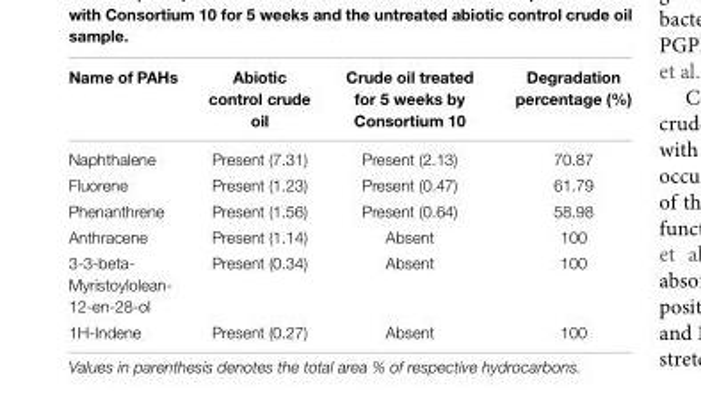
<table><thead><tr><td>Name of PAHs</td><td>Abiotic control crude oil</td><td>Crude oil treated for 5 weeks by Consortium 10</td><td>Degradation percentage (%)</td></tr></thead><tbody><tr><td>Naphthalene</td><td>Present (7.31)</td><td>Present (2.13)</td><td>70.87</td></tr><tr><td>Fluorene</td><td>Present (1.23)</td><td>Present (0.47)</td><td>61.79</td></tr><tr><td>Phenanthrene</td><td>Present (1.56)</td><td>Present (0.64)</td><td>58.98</td></tr><tr><td>Anthracene</td><td>Present (1.14)</td><td>Absent</td><td>100</td></tr><tr><td>3-3-beta- Myristoylolean- 12-en-28-ol</td><td>Present (0.34)</td><td>Absent</td><td>100</td></tr><tr><td>1H-Indene</td><td>Present (0.27)</td><td>Absent</td><td>100</td></tr></tbody></table>